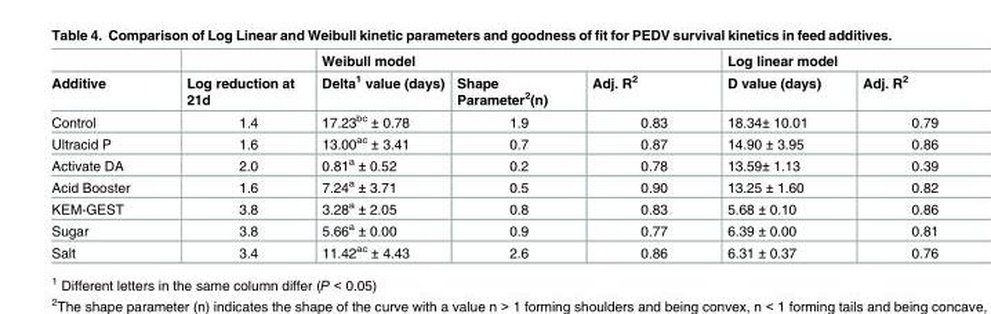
<table><thead><tr><td rowspan="2">Additive</td><td rowspan="2">Log reduction at 21d</td><td colspan="3">Weibull model</td><td colspan="2">Log linear model</td></tr><tr><td>Delta<sup>1</sup> value (days)</td><td>Shape Parameter<sup>2</sup>(n)</td><td>Adj. R<sup>2</sup></td><td>D value (days)</td><td>Adj. R<sup>2</sup></td></tr></thead><tbody><tr><td>Control</td><td>1.4</td><td>17.23<sup>bc</sup> ± 0.78</td><td>1.9</td><td>0.83</td><td>18.34± 10.01</td><td>0.79</td></tr><tr><td>Ultracid P</td><td>1.6</td><td>13.00<sup>ac</sup> ± 3.41</td><td>0.7</td><td>0.87</td><td>14.90 ± 3.95</td><td>0.86</td></tr><tr><td>Activate DA</td><td>2.0</td><td>0.81<sup>a</sup> ± 0.52</td><td>0.2</td><td>0.78</td><td>13.59± 1.13</td><td>0.39</td></tr><tr><td>Acid Booster</td><td>1.6</td><td>7.24<sup>a</sup> ± 3.71</td><td>0.5</td><td>0.90</td><td>13.25 ± 1.60</td><td>0.82</td></tr><tr><td>KEM-GEST</td><td>3.8</td><td>3.28<sup>a</sup> ± 2.05</td><td>0.8</td><td>0.83</td><td>5.68 ± 0.10</td><td>0.86</td></tr><tr><td>Sugar</td><td>3.8</td><td>5.66<sup>a</sup> ± 0.00</td><td>0.9</td><td>0.77</td><td>6.39 ± 0.00</td><td>0.81</td></tr><tr><td>Salt</td><td>3.4</td><td>11.42<sup>ac</sup> ± 4.43</td><td>2.6</td><td>0.86</td><td>6.31 ± 0.37</td><td>0.76</td></tr></tbody></table>